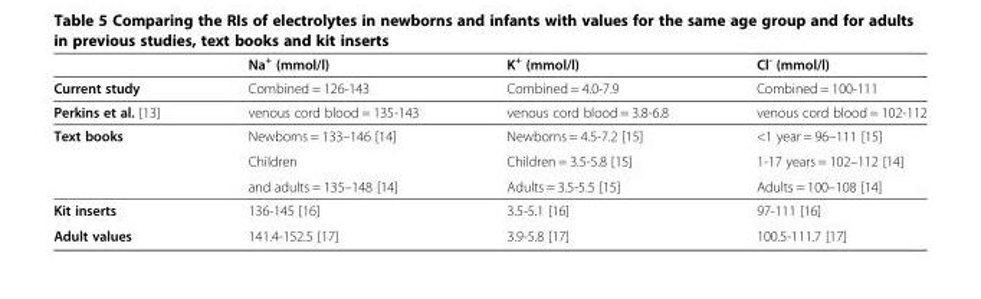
<table><thead><tr><td></td><td>Na<sup>+</sup> (mmol/l)</td><td>K<sup>+</sup> (mmol/l)</td><td>Cl<sup>-</sup> (mmol/l)</td></tr></thead><tbody><tr><td>Current study</td><td>Combined = 126-143</td><td>Combined = 4.0-7.9</td><td>Combined = 100-111</td></tr><tr><td>Perkins et al. [13]</td><td>venous cord blood = 135-143</td><td>venous cord blood = 3.8-6.8</td><td>venous cord blood = 102-112</td></tr><tr><td rowspan="3">Text books</td><td>Newborns = 133–146 [14]</td><td>Newborns = 4.5-7.2 [15]</td><td>&lt;1 year = 96–111 [15]</td></tr><tr><td>Children</td><td>Children = 3.5-5.8 [15]</td><td>1-17 years = 102–112 [14]</td></tr><tr><td>and adults = 135–148 [14]</td><td>Adults = 3.5-5.5 [15]</td><td>Adults = 100–108 [14]</td></tr><tr><td>Kit inserts</td><td>136-145 [16]</td><td>3.5-5.1 [16]</td><td>97-111 [16]</td></tr><tr><td>Adult values</td><td>141.4-152.5 [17]</td><td>3.9-5.8 [17]</td><td>100.5-111.7 [17]</td></tr></tbody></table>